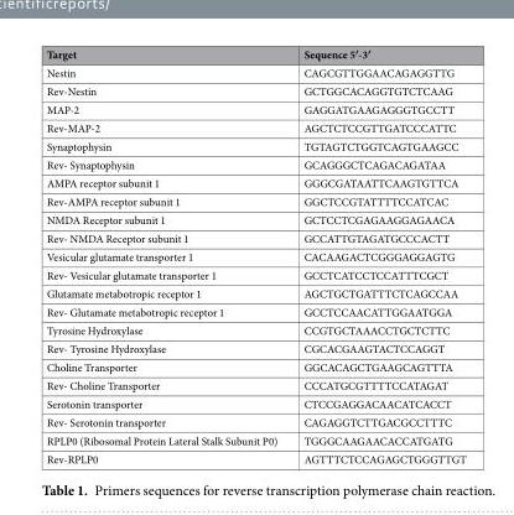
<table><thead><tr><td>Target</td><td>Sequence 5′-3′</td></tr></thead><tbody><tr><td>Nestin</td><td>CAGCGTTGGAACAGAGGTTG</td></tr><tr><td>Rev-Nestin</td><td>GCTGGCACAGGTGTCTCAAG</td></tr><tr><td>MAP-2</td><td>GAGGATGAAGAGGGTGCCTT</td></tr><tr><td>Rev-MAP-2</td><td>AGCTCTCCGTTGATCCCATTC</td></tr><tr><td>Synaptophysin</td><td>TGTAGTCTGGTCAGTGAAGCC</td></tr><tr><td>Rev- Synaptophysin</td><td>GCAGGGCTCAGACAGATAA</td></tr><tr><td>AMPA receptor subunit 1</td><td>GGGCGATAATTCAAGTGTTCA</td></tr><tr><td>Rev-AMPA receptor subunit 1</td><td>GGCTCCGTATTTTCCATCAC</td></tr><tr><td>NMDA Receptor subunit 1</td><td>GCTCCTCGAGAAGGAGAACA</td></tr><tr><td>Rev- NMDA Receptor subunit 1</td><td>GCCATTGTAGATGCCCACTT</td></tr><tr><td>Vesicular glutamate transporter 1</td><td>CACAAGACTCGGGAGGAGTG</td></tr><tr><td>Rev- Vesicular glutamate transporter 1</td><td>GCCTCATCCTCCATTTCGCT</td></tr><tr><td>Glutamate metabotropic receptor 1</td><td>AGCTGCTGATTTCTCAGCCAA</td></tr><tr><td>Rev- Glutamate metabotropic receptor 1</td><td>GCCTCCAACATTGGAATGGA</td></tr><tr><td>Tyrosine Hydroxylase</td><td>CCGTGCTAAACCTGCTCTTC</td></tr><tr><td>Rev- Tyrosine Hydroxylase</td><td>CGCACGAAGTACTCCAGGT</td></tr><tr><td>Choline Transporter</td><td>GGCACAGCTGAAGCAGTTTA</td></tr><tr><td>Rev- Choline Transporter</td><td>CCCATGCGTTTTCCATAGAT</td></tr><tr><td>Serotonin transporter</td><td>CTCCGAGGACAACATCACCT</td></tr><tr><td>Rev- Serotonin transporter</td><td>CAGAGGTCTTGACGCCTTTC</td></tr><tr><td>RPLP0 (Ribosomal Protein Lateral Stalk Subunit P0)</td><td>TGGGCAAGAACACCATGATG</td></tr><tr><td>Rev-RPLP0</td><td>AGTTTCTCCAGAGCTGGGTTGT</td></tr></tbody></table>